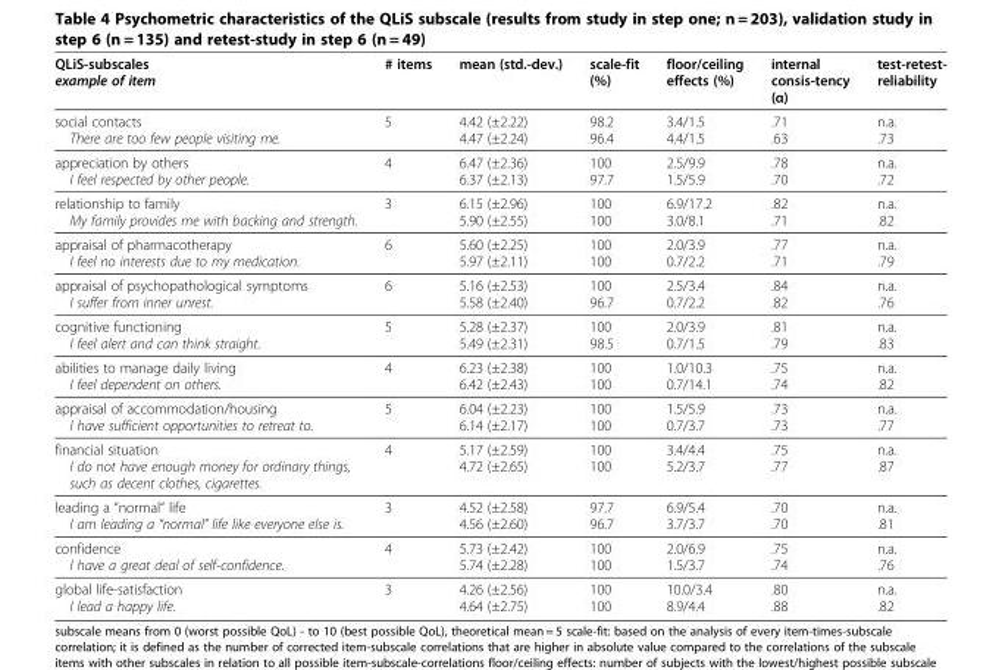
<table><thead><tr><td>QLiS-subscales example of item</td><td># items</td><td>mean (std.-dev.)</td><td>scale-fit (%)</td><td>floor/ceiling effects (%)</td><td>internal consis-tency (α)</td><td>test-retest- reliability</td></tr></thead><tbody><tr><td>social contacts There are too few people visiting me.</td><td>5</td><td>4.42 (±2.22) 4.47 (±2.24)</td><td>98.2 96.4</td><td>3.4/1.5 4.4/1.5</td><td>.71 .63</td><td>n.a. .73</td></tr><tr><td>appreciation by others I feel respected by other people.</td><td>4</td><td>6.47 (±2.36) 6.37 (±2.13)</td><td>100 97.7</td><td>2.5/9.9 1.5/5.9</td><td>.78 .70</td><td>n.a. .72</td></tr><tr><td>relationship to family My family provides me with backing and strength.</td><td>3</td><td>6.15 (±2.96) 5.90 (±2.55)</td><td>100 100</td><td>6.9/17.2 3.0/8.1</td><td>.82 .71</td><td>n.a. .82</td></tr><tr><td>appraisal of pharmacotherapy I feel no interests due to my medication.</td><td>6</td><td>5.60 (±2.25) 5.97 (±2.11)</td><td>100 100</td><td>2.0/3.9 0.7/2.2</td><td>.77 .71</td><td>n.a. .79</td></tr><tr><td>appraisal of psychopathological symptoms I suffer from inner unrest.</td><td>6</td><td>5.16 (±2.53) 5.58 (±2.40)</td><td>100 96.7</td><td>2.5/3.4 0.7/2.2</td><td>.84 .82</td><td>n.a. .76</td></tr><tr><td>cognitive functioning I feel alert and can think straight.</td><td>5</td><td>5.28 (±2.37) 5.49 (±2.31)</td><td>100 98.5</td><td>2.0/3.9 0.7/1.5</td><td>.81 .79</td><td>n.a. .83</td></tr><tr><td>abilities to manage daily living I feel dependent on others.</td><td>4</td><td>6.23 (±2.38) 6.42 (±2.43)</td><td>100 100</td><td>1.0/10.3 0.7/14.1</td><td>.75 .74</td><td>n.a. .82</td></tr><tr><td>appraisal of accommodation/housing I have sufficient opportunities to retreat to.</td><td>5</td><td>6.04 (±2.23) 6.14 (±2.17)</td><td>100 100</td><td>1.5/5.9 0.7/3.7</td><td>.73 .73</td><td>n.a. .77</td></tr><tr><td>financial situation I do not have enough money for ordinary things, such as decent clothes, cigarettes.</td><td>4</td><td>5.17 (±2.59) 4.72 (±2.65)</td><td>100 100</td><td>3.4/4.4 5.2/3.7</td><td>.75 .77</td><td>n.a. .87</td></tr><tr><td>leading a “normal“ life I am leading a “normal” life like everyone else is.</td><td>3</td><td>4.52 (±2.58) 4.56 (±2.60)</td><td>97.7 96.7</td><td>6.9/5.4 3.7/3.7</td><td>.70 .70</td><td>n.a. .81</td></tr><tr><td>confidence I have a great deal of self-confidence.</td><td>4</td><td>5.73 (±2.42) 5.74 (±2.28)</td><td>100 100</td><td>2.0/6.9 1.5/3.7</td><td>.75 .74</td><td>n.a. .76</td></tr><tr><td>global life-satisfaction I lead a happy life.</td><td>3</td><td>4.26 (±2.56) 4.64 (±2.75)</td><td>100 100</td><td>10.0/3.4 8.9/4.4</td><td>.80 .88</td><td>n.a. .82</td></tr></tbody></table>